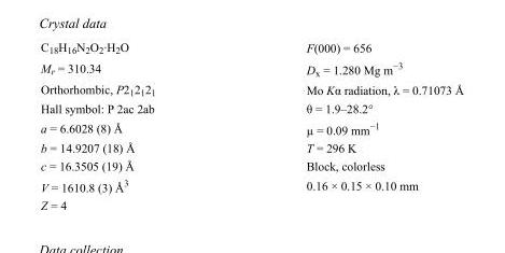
<table><tbody><tr><td>C<sub>18</sub>H<sub>16</sub>N<sub>2</sub>O<sub>2</sub>·H<sub>2</sub>O</td><td>F(000) = 656</td></tr><tr><td>M<sub>r</sub> = 310.34</td><td>D<sub>x</sub> = 1.280 Mg m<sup>−3</sup></td></tr><tr><td>Orthorhombic, P2<sub>1</sub>2<sub>1</sub>2<sub>1</sub></td><td>Mo Kα radiation, λ = 0.71073 Å</td></tr><tr><td>Hall symbol: P 2ac 2ab</td><td>θ = 1.9–28.2°</td></tr><tr><td>a = 6.6028 (8) Å</td><td>µ = 0.09 mm<sup>−1</sup></td></tr><tr><td>b = 14.9207 (18) Å</td><td>T = 296 K</td></tr><tr><td>c = 16.3505 (19) Å</td><td>Block, colorless</td></tr><tr><td>V = 1610.8 (3) Å<sup>3</sup></td><td>0.16 × 0.15 × 0.10 mm</td></tr><tr><td>Z = 4</td><td></td></tr></tbody></table>